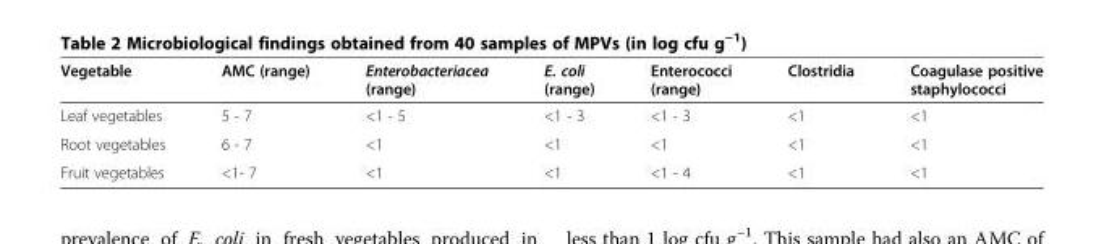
<table><thead><tr><td>Vegetable</td><td>AMC (range)</td><td>Enterobacteriacea (range)</td><td>E. coli (range)</td><td>Enterococci (range)</td><td>Clostridia</td><td>Coagulase positive staphylococci</td></tr></thead><tbody><tr><td>Leaf vegetables</td><td>5 - 7</td><td>&lt;1 - 5</td><td>&lt;1 - 3</td><td>&lt;1 - 3</td><td>&lt;1</td><td>&lt;1</td></tr><tr><td>Root vegetables</td><td>6 - 7</td><td>&lt;1</td><td>&lt;1</td><td>&lt;1</td><td>&lt;1</td><td>&lt;1</td></tr><tr><td>Fruit vegetables</td><td>&lt;1- 7</td><td>&lt;1</td><td>&lt;1</td><td>&lt;1 - 4</td><td>&lt;1</td><td>&lt;1</td></tr></tbody></table>